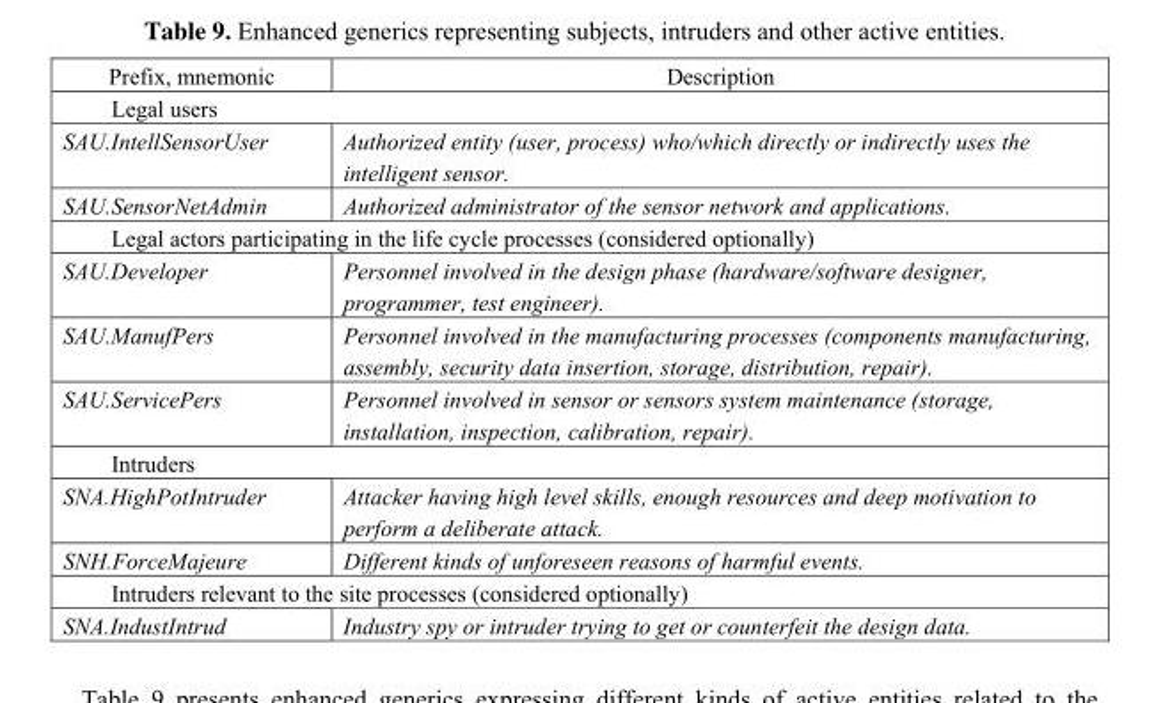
<table><thead><tr><td>Prefix, mnemonic</td><td>Description</td></tr></thead><tbody><tr><td colspan="2">Legal users</td></tr><tr><td>SAU.IntellSensorUser</td><td>Authorized entity (user, process) who/which directly or indirectly uses the intelligent sensor.</td></tr><tr><td>SAU.SensorNetAdmin</td><td>Authorized administrator of the sensor network and applications.</td></tr><tr><td colspan="2">Legal actors participating in the life cycle processes (considered optionally)</td></tr><tr><td>SAU.Developer</td><td>Personnel involved in the design phase (hardware/software designer, programmer, test engineer).</td></tr><tr><td>SAU.ManufPers</td><td>Personnel involved in the manufacturing processes (components manufacturing, assembly, security data insertion, storage, distribution, repair).</td></tr><tr><td>SAU.ServicePers</td><td>Personnel involved in sensor or sensors system maintenance (storage, installation, inspection, calibration, repair).</td></tr><tr><td colspan="2">Intruders</td></tr><tr><td>SNA.HighPotIntruder</td><td>Attacker having high level skills, enough resources and deep motivation to perform a deliberate attack.</td></tr><tr><td>SNH.ForceMajeure</td><td>Different kinds of unforeseen reasons of harmful events.</td></tr><tr><td colspan="2">Intruders relevant to the site processes (considered optionally)</td></tr><tr><td>SNA.IndustIntrud</td><td>Industry spy or intruder trying to get or counterfeit the design data.</td></tr></tbody></table>